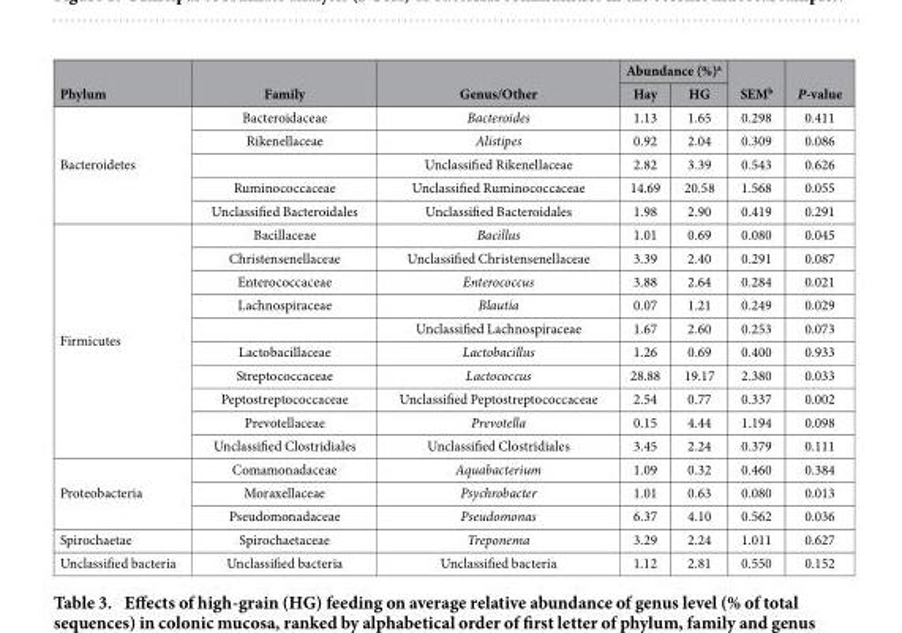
<table><thead><tr><td rowspan="2">Phylum</td><td rowspan="2">Family</td><td rowspan="2">Genus/Other</td><td colspan="2">Abundance (%)<sup>a</sup></td><td rowspan="2">SEM<sup>b</sup></td><td rowspan="2">P-value</td></tr><tr><td>Hay</td><td>HG</td></tr></thead><tbody><tr><td rowspan="5">Bacteroidetes</td><td>Bacteroidaceae</td><td>Bacteroides</td><td>1.13</td><td>1.65</td><td>0.298</td><td>0.411</td></tr><tr><td>Rikenellaceae</td><td>Alistipes</td><td>0.92</td><td>2.04</td><td>0.309</td><td>0.086</td></tr><tr><td></td><td>Unclassified Rikenellaceae</td><td>2.82</td><td>3.39</td><td>0.543</td><td>0.626</td></tr><tr><td>Ruminococcaceae</td><td>Unclassified Ruminococcaceae</td><td>14.69</td><td>20.58</td><td>1.568</td><td>0.055</td></tr><tr><td>Unclassified Bacteroidales</td><td>Unclassified Bacteroidales</td><td>1.98</td><td>2.90</td><td>0.419</td><td>0.291</td></tr><tr><td rowspan="10">Firmicutes</td><td>Bacillaceae</td><td>Bacillus</td><td>1.01</td><td>0.69</td><td>0.080</td><td>0.045</td></tr><tr><td>Christensenellaceae</td><td>Unclassified Christensenellaceae</td><td>3.39</td><td>2.40</td><td>0.291</td><td>0.087</td></tr><tr><td>Enterococcaceae</td><td>Enterococcus</td><td>3.88</td><td>2.64</td><td>0.284</td><td>0.021</td></tr><tr><td>Lachnospiraceae</td><td>Blautia</td><td>0.07</td><td>1.21</td><td>0.249</td><td>0.029</td></tr><tr><td></td><td>Unclassified Lachnospiraceae</td><td>1.67</td><td>2.60</td><td>0.253</td><td>0.073</td></tr><tr><td>Lactobacillaceae</td><td>Lactobacillus</td><td>1.26</td><td>0.69</td><td>0.400</td><td>0.933</td></tr><tr><td>Streptococcaceae</td><td>Lactococcus</td><td>28.88</td><td>19.17</td><td>2.380</td><td>0.033</td></tr><tr><td>Peptostreptococcaceae</td><td>Unclassified Peptostreptococcaceae</td><td>2.54</td><td>0.77</td><td>0.337</td><td>0.002</td></tr><tr><td>Prevotellaceae</td><td>Prevotella</td><td>0.15</td><td>4.44</td><td>1.194</td><td>0.098</td></tr><tr><td>Unclassified Clostridiales</td><td>Unclassified Clostridiales</td><td>3.45</td><td>2.24</td><td>0.379</td><td>0.111</td></tr><tr><td rowspan="3">Proteobacteria</td><td>Comamonadaceae</td><td>Aquabacterium</td><td>1.09</td><td>0.32</td><td>0.460</td><td>0.384</td></tr><tr><td>Moraxellaceae</td><td>Psychrobacter</td><td>1.01</td><td>0.63</td><td>0.080</td><td>0.013</td></tr><tr><td>Pseudomonadaceae</td><td>Pseudomonas</td><td>6.37</td><td>4.10</td><td>0.562</td><td>0.036</td></tr><tr><td>Spirochaetae</td><td>Spirochaetaceae</td><td>Treponema</td><td>3.29</td><td>2.24</td><td>1.011</td><td>0.627</td></tr><tr><td>Unclassified bacteria</td><td>Unclassified bacteria</td><td>Unclassified bacteria</td><td>1.12</td><td>2.81</td><td>0.550</td><td>0.152</td></tr></tbody></table>